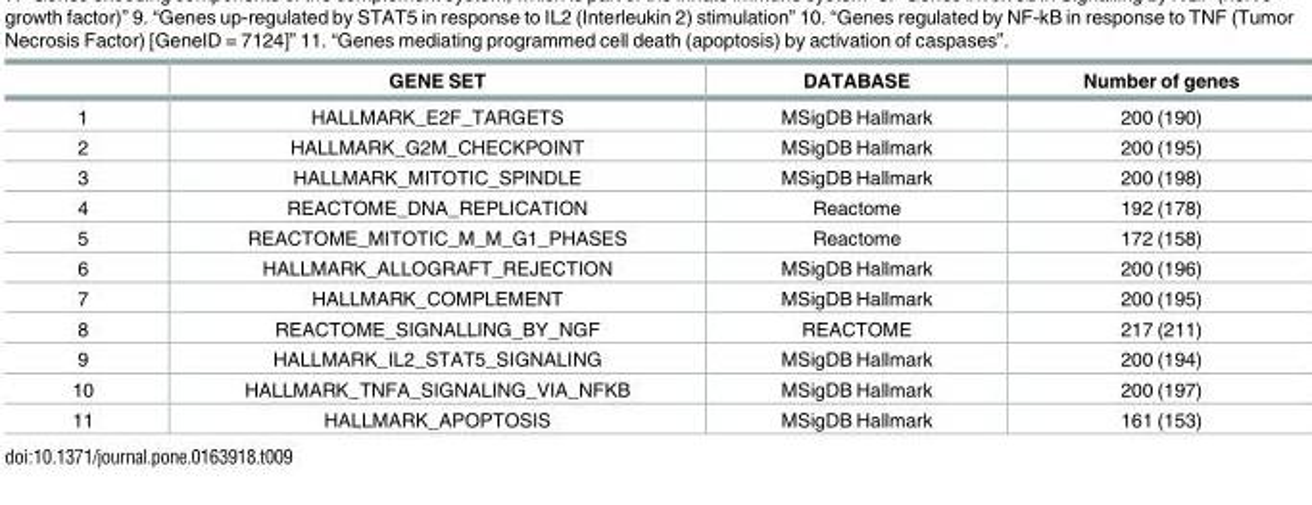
<table><thead><tr><td></td><td>GENE SET</td><td>DATABASE</td><td>Number of genes</td></tr></thead><tbody><tr><td>1</td><td>HALLMARK_E2F_TARGETS</td><td>MSigDB Hallmark</td><td>200 (190)</td></tr><tr><td>2</td><td>HALLMARK_G2M_CHECKPOINT</td><td>MSigDB Hallmark</td><td>200 (195)</td></tr><tr><td>3</td><td>HALLMARK_MITOTIC_SPINDLE</td><td>MSigDB Hallmark</td><td>200 (198)</td></tr><tr><td>4</td><td>REACTOME_DNA_REPLICATION</td><td>Reactome</td><td>192 (178)</td></tr><tr><td>5</td><td>REACTOME_MITOTIC_M_M_G1_PHASES</td><td>Reactome</td><td>172 (158)</td></tr><tr><td>6</td><td>HALLMARK_ALLOGRAFT_REJECTION</td><td>MSigDB Hallmark</td><td>200 (196)</td></tr><tr><td>7</td><td>HALLMARK_COMPLEMENT</td><td>MSigDB Hallmark</td><td>200 (195)</td></tr><tr><td>8</td><td>REACTOME_SIGNALLING_BY_NGF</td><td>REACTOME</td><td>217 (211)</td></tr><tr><td>9</td><td>HALLMARK_IL2_STAT5_SIGNALING</td><td>MSigDB Hallmark</td><td>200 (194)</td></tr><tr><td>10</td><td>HALLMARK_TNFA_SIGNALING_VIA_NFKB</td><td>MSigDB Hallmark</td><td>200 (197)</td></tr><tr><td>11</td><td>HALLMARK_APOPTOSIS</td><td>MSigDB Hallmark</td><td>161 (153)</td></tr></tbody></table>